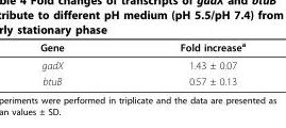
<table><thead><tr><td>Gene</td><td>Fold increase<sup>a</sup></td></tr></thead><tbody><tr><td>gadX</td><td>1.43 ± 0.07</td></tr><tr><td>btuB</td><td>0.57 ± 0.13</td></tr></tbody></table>